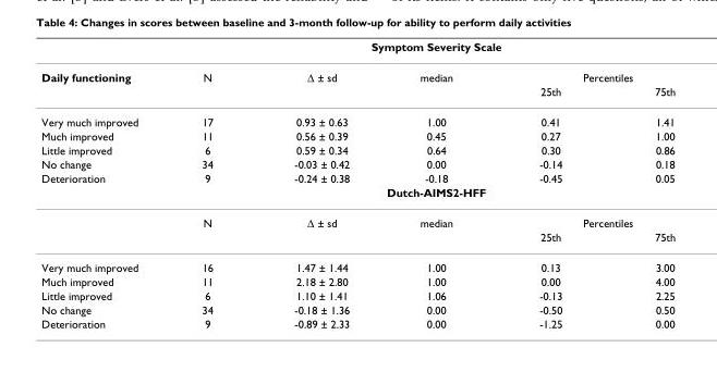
<table><thead><tr><td rowspan="3">Daily functioning</td><td colspan="5">Symptom Severity Scale</td></tr><tr><td rowspan="2">N</td><td rowspan="2">Δ ± sd</td><td rowspan="2">median</td><td colspan="2">Percentiles</td></tr><tr><td>25th</td><td>75th</td></tr></thead><tbody><tr><td>Very much improved</td><td>17</td><td>0.93 ± 0.63</td><td>1.00</td><td>0.41</td><td>1.41</td></tr><tr><td>Much improved</td><td>11</td><td>0.56 ± 0.39</td><td>0.45</td><td>0.27</td><td>1.00</td></tr><tr><td>Little improved</td><td>6</td><td>0.59 ± 0.34</td><td>0.64</td><td>0.30</td><td>0.86</td></tr><tr><td>No change</td><td>34</td><td>-0.03 ± 0.42</td><td>0.00</td><td>-0.14</td><td>0.18</td></tr><tr><td rowspan="4">Deterioration</td><td>9</td><td>-0.24 ± 0.38</td><td>-0.18</td><td>-0.45</td><td>0.05</td></tr><tr><td colspan="5">Dutch-AIMS2-HFF</td></tr><tr><td>N</td><td>Δ ± sd</td><td>median</td><td colspan="2">Percentiles</td></tr><tr><td></td><td></td><td></td><td>25th</td><td>75th</td></tr><tr><td>Very much improved</td><td>16</td><td>1.47 ± 1.44</td><td>1.00</td><td>0.13</td><td>3.00</td></tr><tr><td>Much improved</td><td>11</td><td>2.18 ± 2.80</td><td>1.00</td><td>0.00</td><td>4.00</td></tr><tr><td>Little improved</td><td>6</td><td>1.10 ± 1.41</td><td>1.06</td><td>-0.13</td><td>2.25</td></tr><tr><td>No change</td><td>34</td><td>-0.18 ± 1.36</td><td>0.00</td><td>-0.50</td><td>0.50</td></tr><tr><td>Deterioration</td><td>9</td><td>-0.89 ± 2.33</td><td>0.00</td><td>-1.25</td><td>0.00</td></tr></tbody></table>